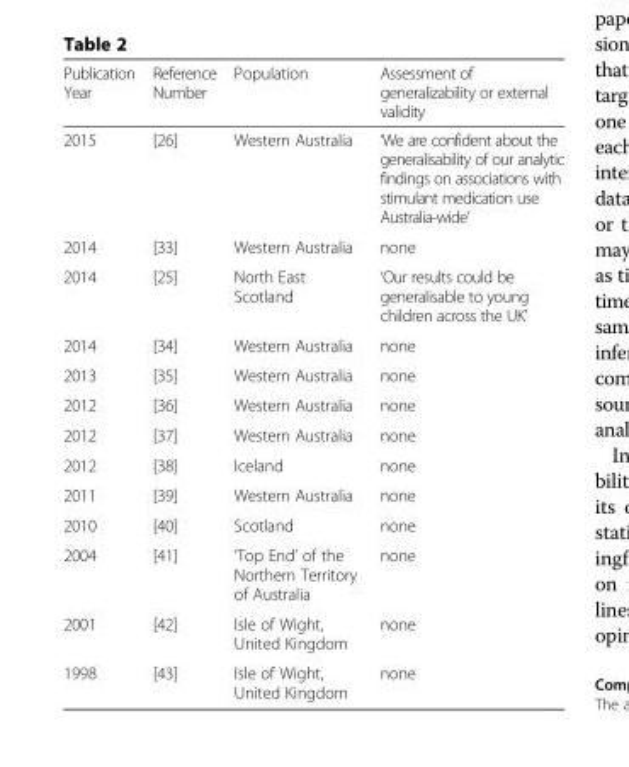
<table><thead><tr><td>Publication Year</td><td>Reference Number</td><td>Population</td><td>Assessment of generalizability or external validity</td></tr></thead><tbody><tr><td>2015</td><td>[26]</td><td>Western Australia</td><td>‘We are confident about the generalisability of our analytic findings on associations with stimulant medication use Australia-wide’</td></tr><tr><td>2014</td><td>[33]</td><td>Western Australia</td><td>none</td></tr><tr><td>2014</td><td>[25]</td><td>North East Scotland</td><td>‘Our results could be generalisable to young children across the UK&#x27;</td></tr><tr><td>2014</td><td>[34]</td><td>Western Australia</td><td>none</td></tr><tr><td>2013</td><td>[35]</td><td>Western Australia</td><td>none</td></tr><tr><td>2012</td><td>[36]</td><td>Western Australia</td><td>none</td></tr><tr><td>2012</td><td>[37]</td><td>Western Australia</td><td>none</td></tr><tr><td>2012</td><td>[38]</td><td>Iceland</td><td>none</td></tr><tr><td>2011</td><td>[39]</td><td>Western Australia</td><td>none</td></tr><tr><td>2010</td><td>[40]</td><td>Scotland</td><td>none</td></tr><tr><td>2004</td><td>[41]</td><td>‘Top End’ of the Northern Territory of Australia</td><td>none</td></tr><tr><td>2001</td><td>[42]</td><td>Isle of Wight, United Kingdom</td><td>none</td></tr><tr><td>1998</td><td>[43]</td><td>Isle of Wight, United Kingdom</td><td>none</td></tr></tbody></table>